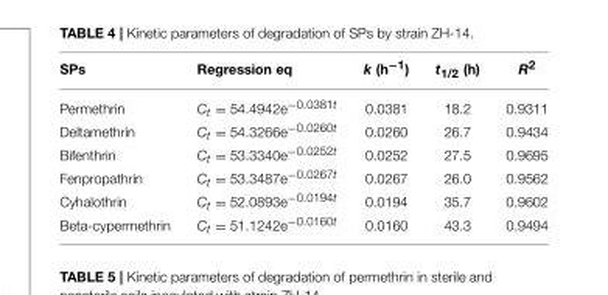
<table><thead><tr><td>SPs</td><td>Regression eq</td><td>k (h<sup>−1</sup>)</td><td>t<sub>1/2</sub> (h)</td><td>R<sup>2</sup></td></tr></thead><tbody><tr><td>Permethrin</td><td>Ct = 54.4942e−0.0381t</td><td>0.0381</td><td>18.2</td><td>0.9311</td></tr><tr><td>Deltamethrin</td><td>Ct = 54.3266e−0.0260t</td><td>0.0260</td><td>26.7</td><td>0.9434</td></tr><tr><td>Bifenthrin</td><td>Ct = 53.3340e−0.0252t</td><td>0.0252</td><td>27.5</td><td>0.9695</td></tr><tr><td>Fenpropathrin</td><td>Ct = 53.3487e−0.0267t</td><td>0.0267</td><td>26.0</td><td>0.9562</td></tr><tr><td>Cyhalothrin</td><td>Ct = 52.0893e−0.0194t</td><td>0.0194</td><td>35.7</td><td>0.9602</td></tr><tr><td>Beta-cypermethrin</td><td>Ct = 51.1242e−0.0160t</td><td>0.0160</td><td>43.3</td><td>0.9494</td></tr></tbody></table>